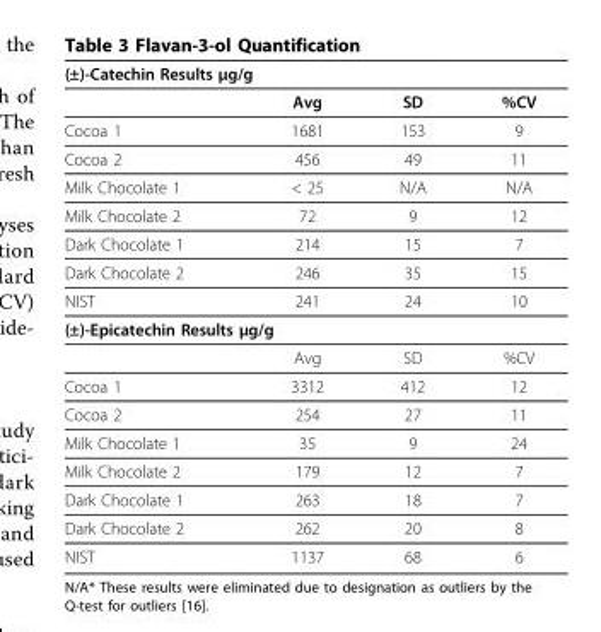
<table><thead><tr><td colspan="4">(±)-Catechin Results μg/g</td></tr><tr><td></td><td>Avg</td><td>SD</td><td>%CV</td></tr></thead><tbody><tr><td>Cocoa 1</td><td>1681</td><td>153</td><td>9</td></tr><tr><td>Cocoa 2</td><td>456</td><td>49</td><td>11</td></tr><tr><td>Milk Chocolate 1</td><td>&lt; 25</td><td>N/A</td><td>N/A</td></tr><tr><td>Milk Chocolate 2</td><td>72</td><td>9</td><td>12</td></tr><tr><td>Dark Chocolate 1</td><td>214</td><td>15</td><td>7</td></tr><tr><td>Dark Chocolate 2</td><td>246</td><td>35</td><td>15</td></tr><tr><td>NIST</td><td>241</td><td>24</td><td>10</td></tr><tr><td colspan="4">(±)-Epicatechin Results μg/g</td></tr><tr><td></td><td>Avg</td><td>SD</td><td>%CV</td></tr><tr><td>Cocoa 1</td><td>3312</td><td>412</td><td>12</td></tr><tr><td>Cocoa 2</td><td>254</td><td>27</td><td>11</td></tr><tr><td>Milk Chocolate 1</td><td>35</td><td>9</td><td>24</td></tr><tr><td>Milk Chocolate 2</td><td>179</td><td>12</td><td>7</td></tr><tr><td>Dark Chocolate 1</td><td>263</td><td>18</td><td>7</td></tr><tr><td>Dark Chocolate 2</td><td>262</td><td>20</td><td>8</td></tr><tr><td>NIST</td><td>1137</td><td>68</td><td>6</td></tr></tbody></table>